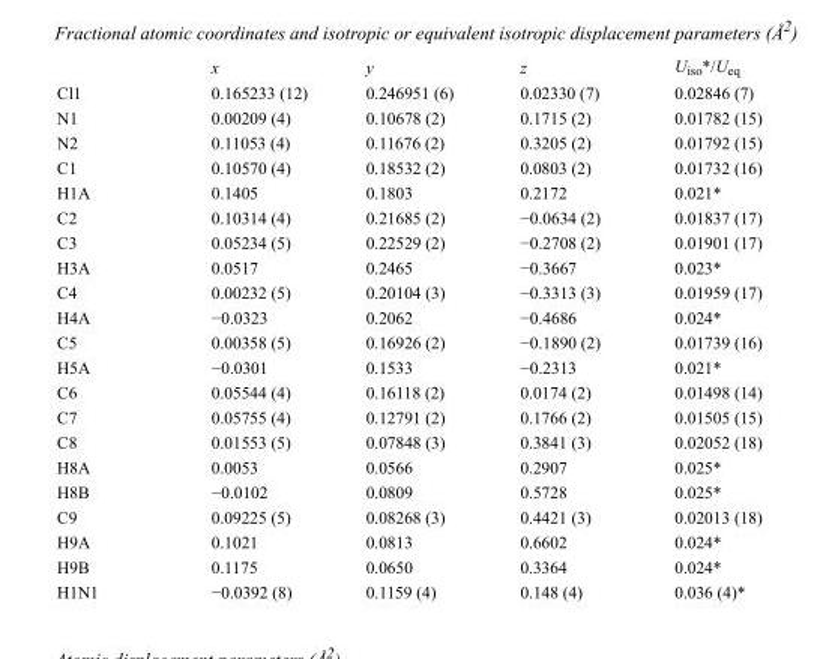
<table><thead><tr><td></td><td>x</td><td>y</td><td>z</td><td>U<sub>iso</sub>*/U<sub>eq</sub></td></tr></thead><tbody><tr><td>Cl1</td><td>0.165233 (12)</td><td>0.246951 (6)</td><td>0.02330 (7)</td><td>0.02846 (7)</td></tr><tr><td>N1</td><td>0.00209 (4)</td><td>0.10678 (2)</td><td>0.1715 (2)</td><td>0.01782 (15)</td></tr><tr><td>N2</td><td>0.11053 (4)</td><td>0.11676 (2)</td><td>0.3205 (2)</td><td>0.01792 (15)</td></tr><tr><td>C1</td><td>0.10570 (4)</td><td>0.18532 (2)</td><td>0.0803 (2)</td><td>0.01732 (16)</td></tr><tr><td>H1A</td><td>0.1405</td><td>0.1803</td><td>0.2172</td><td>0.021*</td></tr><tr><td>C2</td><td>0.10314 (4)</td><td>0.21685 (2)</td><td>−0.0634 (2)</td><td>0.01837 (17)</td></tr><tr><td>C3</td><td>0.05234 (5)</td><td>0.22529 (2)</td><td>−0.2708 (2)</td><td>0.01901 (17)</td></tr><tr><td>H3A</td><td>0.0517</td><td>0.2465</td><td>−0.3667</td><td>0.023*</td></tr><tr><td>C4</td><td>0.00232 (5)</td><td>0.20104 (3)</td><td>−0.3313 (3)</td><td>0.01959 (17)</td></tr><tr><td>H4A</td><td>−0.0323</td><td>0.2062</td><td>−0.4686</td><td>0.024*</td></tr><tr><td>C5</td><td>0.00358 (5)</td><td>0.16926 (2)</td><td>−0.1890 (2)</td><td>0.01739 (16)</td></tr><tr><td>H5A</td><td>−0.0301</td><td>0.1533</td><td>−0.2313</td><td>0.021*</td></tr><tr><td>C6</td><td>0.05544 (4)</td><td>0.16118 (2)</td><td>0.0174 (2)</td><td>0.01498 (14)</td></tr><tr><td>C7</td><td>0.05755 (4)</td><td>0.12791 (2)</td><td>0.1766 (2)</td><td>0.01505 (15)</td></tr><tr><td>C8</td><td>0.01553 (5)</td><td>0.07848 (3)</td><td>0.3841 (3)</td><td>0.02052 (18)</td></tr><tr><td>H8A</td><td>0.0053</td><td>0.0566</td><td>0.2907</td><td>0.025*</td></tr><tr><td>H8B</td><td>−0.0102</td><td>0.0809</td><td>0.5728</td><td>0.025*</td></tr><tr><td>C9</td><td>0.09225 (5)</td><td>0.08268 (3)</td><td>0.4421 (3)</td><td>0.02013 (18)</td></tr><tr><td>H9A</td><td>0.1021</td><td>0.0813</td><td>0.6602</td><td>0.024*</td></tr><tr><td>H9B</td><td>0.1175</td><td>0.0650</td><td>0.3364</td><td>0.024*</td></tr><tr><td>H1N1</td><td>−0.0392 (8)</td><td>0.1159 (4)</td><td>0.148 (4)</td><td>0.036 (4)*</td></tr></tbody></table>